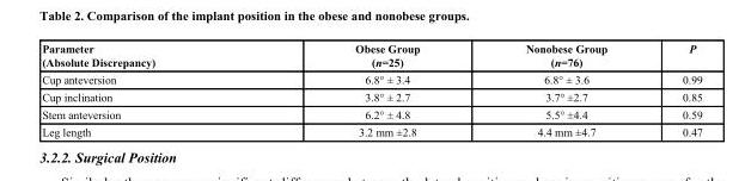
<table><thead><tr><td>Parameter (Absolute Discrepancy)</td><td>Obese Group (n=25)</td><td>Nonobese Group (n=76)</td><td>P</td></tr></thead><tbody><tr><td>Cup anteversion</td><td>6.8° ± 3.4</td><td>6.8° ± 3.6</td><td>0.99</td></tr><tr><td>Cup inclination</td><td>3.8° ± 2.7</td><td>3.7° ±2.7</td><td>0.85</td></tr><tr><td>Stem anteversion</td><td>6.2° ± 4.8</td><td>5.5° ±4.4</td><td>0.59</td></tr><tr><td>Leg length</td><td>3.2 mm ±2.8</td><td>4.4 mm ±4.7</td><td>0.47</td></tr></tbody></table>